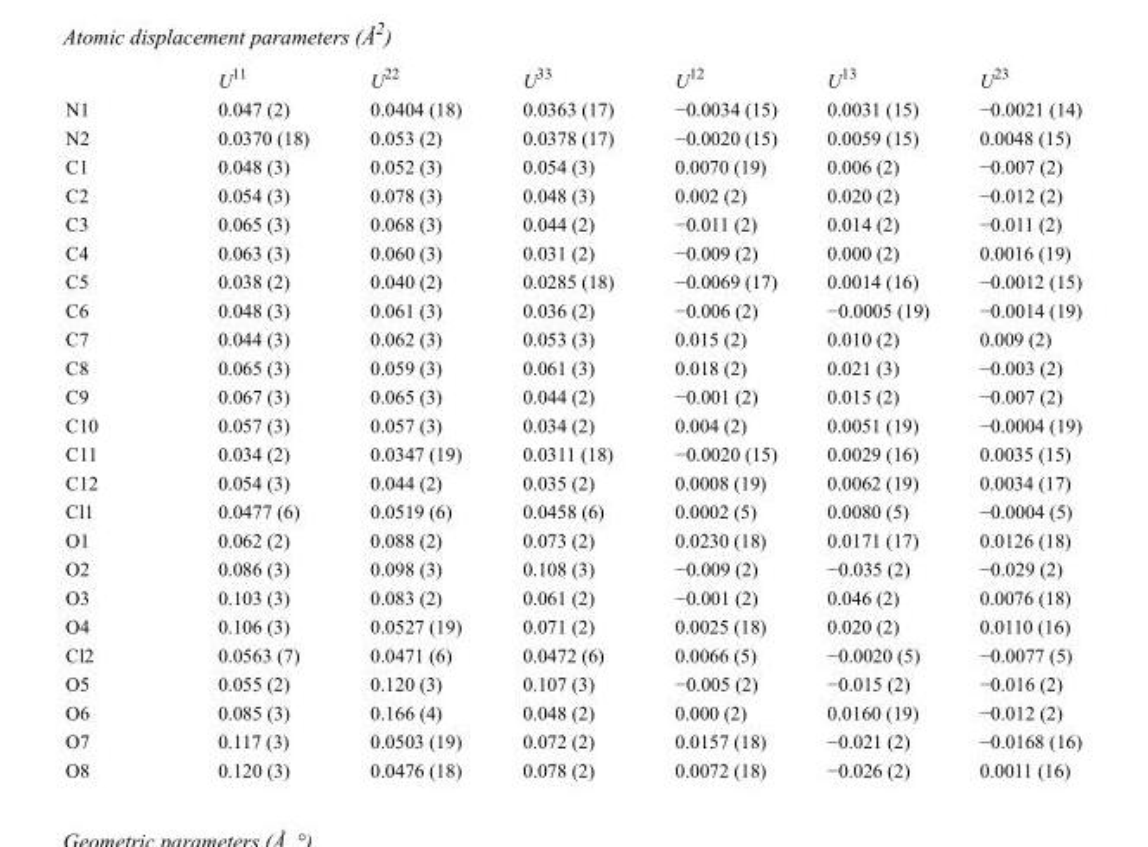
<table><thead><tr><td></td><td>U<sup>11</sup></td><td>U<sup>22</sup></td><td>U<sup>33</sup></td><td>U<sup>12</sup></td><td>U<sup>13</sup></td><td>U<sup>23</sup></td></tr></thead><tbody><tr><td>N1</td><td>0.047 (2)</td><td>0.0404 (18)</td><td>0.0363 (17)</td><td>−0.0034 (15)</td><td>0.0031 (15)</td><td>−0.0021 (14)</td></tr><tr><td>N2</td><td>0.0370 (18)</td><td>0.053 (2)</td><td>0.0378 (17)</td><td>−0.0020 (15)</td><td>0.0059 (15)</td><td>0.0048 (15)</td></tr><tr><td>C1</td><td>0.048 (3)</td><td>0.052 (3)</td><td>0.054 (3)</td><td>0.0070 (19)</td><td>0.006 (2)</td><td>−0.007 (2)</td></tr><tr><td>C2</td><td>0.054 (3)</td><td>0.078 (3)</td><td>0.048 (3)</td><td>0.002 (2)</td><td>0.020 (2)</td><td>−0.012 (2)</td></tr><tr><td>C3</td><td>0.065 (3)</td><td>0.068 (3)</td><td>0.044 (2)</td><td>−0.011 (2)</td><td>0.014 (2)</td><td>−0.011 (2)</td></tr><tr><td>C4</td><td>0.063 (3)</td><td>0.060 (3)</td><td>0.031 (2)</td><td>−0.009 (2)</td><td>0.000 (2)</td><td>0.0016 (19)</td></tr><tr><td>C5</td><td>0.038 (2)</td><td>0.040 (2)</td><td>0.0285 (18)</td><td>−0.0069 (17)</td><td>0.0014 (16)</td><td>−0.0012 (15)</td></tr><tr><td>C6</td><td>0.048 (3)</td><td>0.061 (3)</td><td>0.036 (2)</td><td>−0.006 (2)</td><td>−0.0005 (19)</td><td>−0.0014 (19)</td></tr><tr><td>C7</td><td>0.044 (3)</td><td>0.062 (3)</td><td>0.053 (3)</td><td>0.015 (2)</td><td>0.010 (2)</td><td>0.009 (2)</td></tr><tr><td>C8</td><td>0.065 (3)</td><td>0.059 (3)</td><td>0.061 (3)</td><td>0.018 (2)</td><td>0.021 (3)</td><td>−0.003 (2)</td></tr><tr><td>C9</td><td>0.067 (3)</td><td>0.065 (3)</td><td>0.044 (2)</td><td>−0.001 (2)</td><td>0.015 (2)</td><td>−0.007 (2)</td></tr><tr><td>C10</td><td>0.057 (3)</td><td>0.057 (3)</td><td>0.034 (2)</td><td>0.004 (2)</td><td>0.0051 (19)</td><td>−0.0004 (19)</td></tr><tr><td>C11</td><td>0.034 (2)</td><td>0.0347 (19)</td><td>0.0311 (18)</td><td>−0.0020 (15)</td><td>0.0029 (16)</td><td>0.0035 (15)</td></tr><tr><td>C12</td><td>0.054 (3)</td><td>0.044 (2)</td><td>0.035 (2)</td><td>0.0008 (19)</td><td>0.0062 (19)</td><td>0.0034 (17)</td></tr><tr><td>Cl1</td><td>0.0477 (6)</td><td>0.0519 (6)</td><td>0.0458 (6)</td><td>0.0002 (5)</td><td>0.0080 (5)</td><td>−0.0004 (5)</td></tr><tr><td>O1</td><td>0.062 (2)</td><td>0.088 (2)</td><td>0.073 (2)</td><td>0.0230 (18)</td><td>0.0171 (17)</td><td>0.0126 (18)</td></tr><tr><td>O2</td><td>0.086 (3)</td><td>0.098 (3)</td><td>0.108 (3)</td><td>−0.009 (2)</td><td>−0.035 (2)</td><td>−0.029 (2)</td></tr><tr><td>O3</td><td>0.103 (3)</td><td>0.083 (2)</td><td>0.061 (2)</td><td>−0.001 (2)</td><td>0.046 (2)</td><td>0.0076 (18)</td></tr><tr><td>O4</td><td>0.106 (3)</td><td>0.0527 (19)</td><td>0.071 (2)</td><td>0.0025 (18)</td><td>0.020 (2)</td><td>0.0110 (16)</td></tr><tr><td>Cl2</td><td>0.0563 (7)</td><td>0.0471 (6)</td><td>0.0472 (6)</td><td>0.0066 (5)</td><td>−0.0020 (5)</td><td>−0.0077 (5)</td></tr><tr><td>O5</td><td>0.055 (2)</td><td>0.120 (3)</td><td>0.107 (3)</td><td>−0.005 (2)</td><td>−0.015 (2)</td><td>−0.016 (2)</td></tr><tr><td>O6</td><td>0.085 (3)</td><td>0.166 (4)</td><td>0.048 (2)</td><td>0.000 (2)</td><td>0.0160 (19)</td><td>−0.012 (2)</td></tr><tr><td>O7</td><td>0.117 (3)</td><td>0.0503 (19)</td><td>0.072 (2)</td><td>0.0157 (18)</td><td>−0.021 (2)</td><td>−0.0168 (16)</td></tr><tr><td>O8</td><td>0.120 (3)</td><td>0.0476 (18)</td><td>0.078 (2)</td><td>0.0072 (18)</td><td>−0.026 (2)</td><td>0.0011 (16)</td></tr></tbody></table>